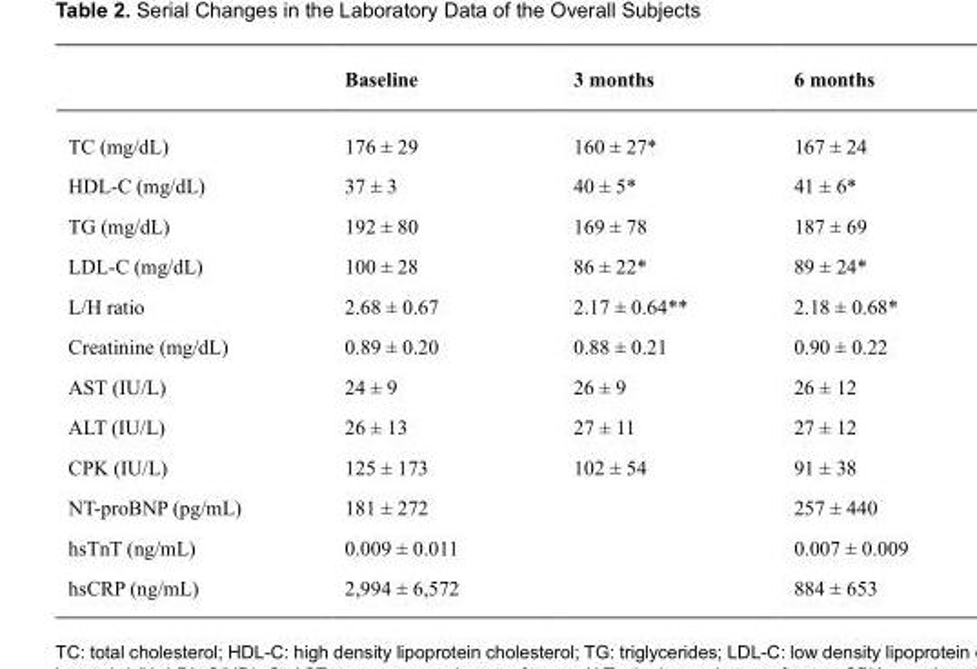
<table><thead><tr><td></td><td>Baseline</td><td>3 months</td><td>6 months</td></tr></thead><tbody><tr><td>TC (mg/dL)</td><td>176 ± 29</td><td>160 ± 27*</td><td>167 ± 24</td></tr><tr><td>HDL-C (mg/dL)</td><td>37 ± 3</td><td>40 ± 5*</td><td>41 ± 6*</td></tr><tr><td>TG (mg/dL)</td><td>192 ± 80</td><td>169 ± 78</td><td>187 ± 69</td></tr><tr><td>LDL-C (mg/dL)</td><td>100 ± 28</td><td>86 ± 22*</td><td>89 ± 24*</td></tr><tr><td>L/H ratio</td><td>2.68 ± 0.67</td><td>2.17 ± 0.64**</td><td>2.18 ± 0.68*</td></tr><tr><td>Creatinine (mg/dL)</td><td>0.89 ± 0.20</td><td>0.88 ± 0.21</td><td>0.90 ± 0.22</td></tr><tr><td>AST (IU/L)</td><td>24 ± 9</td><td>26 ± 9</td><td>26 ± 12</td></tr><tr><td>ALT (IU/L)</td><td>26 ± 13</td><td>27 ± 11</td><td>27 ± 12</td></tr><tr><td>CPK (IU/L)</td><td>125 ± 173</td><td>102 ± 54</td><td>91 ± 38</td></tr><tr><td>NT-proBNP (pg/mL)</td><td>181 ± 272</td><td></td><td>257 ± 440</td></tr><tr><td>hsTnT (ng/mL)</td><td>0.009 ± 0.011</td><td></td><td>0.007 ± 0.009</td></tr><tr><td>hsCRP (ng/mL)</td><td>2,994 ± 6,572</td><td></td><td>884 ± 653</td></tr></tbody></table>